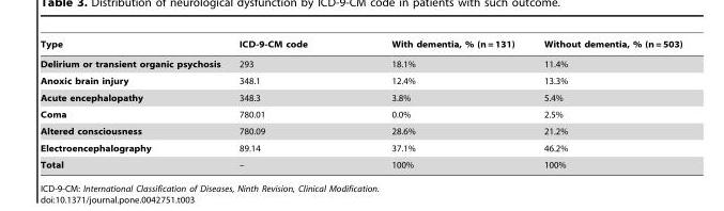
<table><thead><tr><td>Type</td><td>ICD-9-CM code</td><td>With dementia, % (n = 131)</td><td>Without dementia, % (n = 503)</td></tr></thead><tbody><tr><td>Delirium or transient organic psychosis</td><td>293</td><td>18.1%</td><td>11.4%</td></tr><tr><td>Anoxic brain injury</td><td>348.1</td><td>12.4%</td><td>13.3%</td></tr><tr><td>Acute encephalopathy</td><td>348.3</td><td>3.8%</td><td>5.4%</td></tr><tr><td>Coma</td><td>780.01</td><td>0.0%</td><td>2.5%</td></tr><tr><td>Altered consciousness</td><td>780.09</td><td>28.6%</td><td>21.2%</td></tr><tr><td>Electroencephalography</td><td>89.14</td><td>37.1%</td><td>46.2%</td></tr><tr><td>Total</td><td>–</td><td>100%</td><td>100%</td></tr></tbody></table>